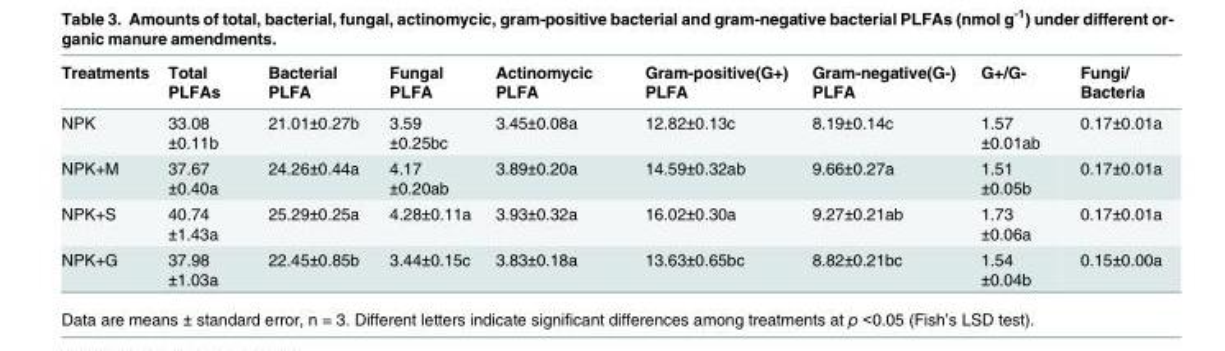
<table><thead><tr><td>Treatments</td><td>Total PLFAs</td><td>Bacterial PLFA</td><td>Fungal PLFA</td><td>Actinomycic PLFA</td><td>Gram-positive(G+) PLFA</td><td>Gram-negative(G-) PLFA</td><td>G+/G-</td><td>Fungi/ Bacteria</td></tr></thead><tbody><tr><td>NPK</td><td>33.08 ±0.11b</td><td>21.01±0.27b</td><td>3.59 ±0.25bc</td><td>3.45±0.08a</td><td>12.82±0.13c</td><td>8.19±0.14c</td><td>1.57 ±0.01ab</td><td>0.17±0.01a</td></tr><tr><td>NPK+M</td><td>37.67 ±0.40a</td><td>24.26±0.44a</td><td>4.17 ±0.20ab</td><td>3.89±0.20a</td><td>14.59±0.32ab</td><td>9.66±0.27a</td><td>1.51 ±0.05b</td><td>0.17±0.01a</td></tr><tr><td>NPK+S</td><td>40.74 ±1.43a</td><td>25.29±0.25a</td><td>4.28±0.11a</td><td>3.93±0.32a</td><td>16.02±0.30a</td><td>9.27±0.21ab</td><td>1.73 ±0.06a</td><td>0.17±0.01a</td></tr><tr><td>NPK+G</td><td>37.98 ±1.03a</td><td>22.45±0.85b</td><td>3.44±0.15c</td><td>3.83±0.18a</td><td>13.63±0.65bc</td><td>8.82±0.21bc</td><td>1.54 ±0.04b</td><td>0.15±0.00a</td></tr></tbody></table>